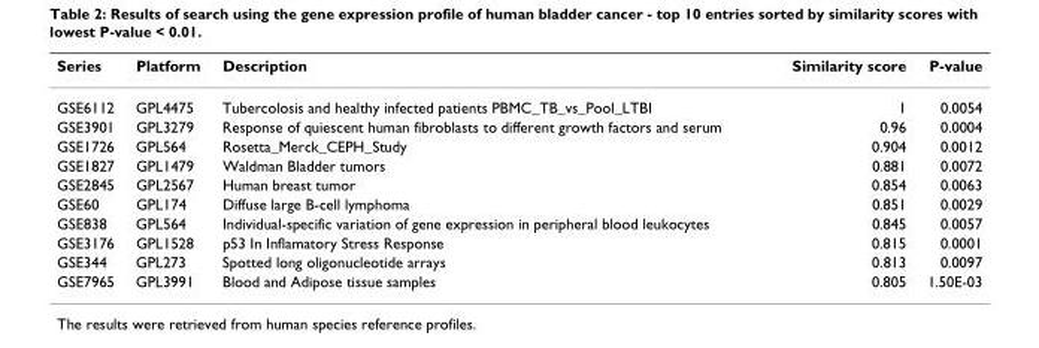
<table><thead><tr><td>Series</td><td>Platform</td><td>Description</td><td>Similarity score</td><td>P-value</td></tr></thead><tbody><tr><td>GSE6112</td><td>GPL4475</td><td>Tubercolosis and healthy infected patients PBMC_TB_vs_Pool_LTBI</td><td>1</td><td>0.0054</td></tr><tr><td>GSE3901</td><td>GPL3279</td><td>Response of quiescent human fibroblasts to different growth factors and serum</td><td>0.96</td><td>0.0004</td></tr><tr><td>GSE1726</td><td>GPL564</td><td>Rosetta_Merck_CEPH_Study</td><td>0.904</td><td>0.0012</td></tr><tr><td>GSE1827</td><td>GPL1479</td><td>Waldman Bladder tumors</td><td>0.881</td><td>0.0072</td></tr><tr><td>GSE2845</td><td>GPL2567</td><td>Human breast tumor</td><td>0.854</td><td>0.0063</td></tr><tr><td>GSE60</td><td>GPL174</td><td>Diffuse large B-cell lymphoma</td><td>0.851</td><td>0.0029</td></tr><tr><td>GSE838</td><td>GPL564</td><td>Individual-specific variation of gene expression in peripheral blood leukocytes</td><td>0.845</td><td>0.0057</td></tr><tr><td>GSE3176</td><td>GPL1528</td><td>p53 In Inflamatory Stress Response</td><td>0.815</td><td>0.0001</td></tr><tr><td>GSE344</td><td>GPL273</td><td>Spotted long oligonucleotide arrays</td><td>0.813</td><td>0.0097</td></tr><tr><td>GSE7965</td><td>GPL3991</td><td>Blood and Adipose tissue samples</td><td>0.805</td><td>1.50E-03</td></tr></tbody></table>